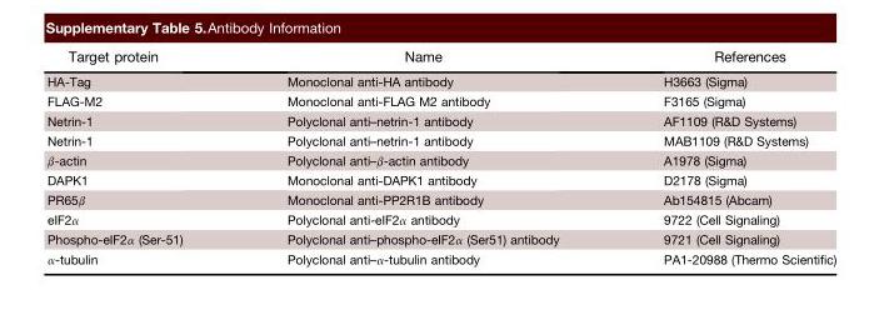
<table><thead><tr><td>Target protein</td><td>Name</td><td>References</td></tr></thead><tbody><tr><td>HA-Tag</td><td>Monoclonal anti-HA antibody</td><td>H3663 (Sigma)</td></tr><tr><td>FLAG-M2</td><td>Monoclonal anti-FLAG M2 antibody</td><td>F3165 (Sigma)</td></tr><tr><td>Netrin-1</td><td>Polyclonal anti–netrin-1 antibody</td><td>AF1109 (R&amp;D Systems)</td></tr><tr><td>Netrin-1</td><td>Polyclonal anti–netrin-1 antibody</td><td>MAB1109 (R&amp;D Systems)</td></tr><tr><td>β-actin</td><td>Polyclonal anti–β-actin antibody</td><td>A1978 (Sigma)</td></tr><tr><td>DAPK1</td><td>Monoclonal anti-DAPK1 antibody</td><td>D2178 (Sigma)</td></tr><tr><td>PR65β</td><td>Monoclonal anti-PP2R1B antibody</td><td>Ab154815 (Abcam)</td></tr><tr><td>eIF2α</td><td>Polyclonal anti-eIF2α antibody</td><td>9722 (Cell Signaling)</td></tr><tr><td>Phospho-eIF2α (Ser-51)</td><td>Polyclonal anti–phospho-eIF2α (Ser51) antibody</td><td>9721 (Cell Signaling)</td></tr><tr><td>α-tubulin</td><td>Polyclonal anti–α-tubulin antibody</td><td>PA1-20988 (Thermo Scientific)</td></tr></tbody></table>